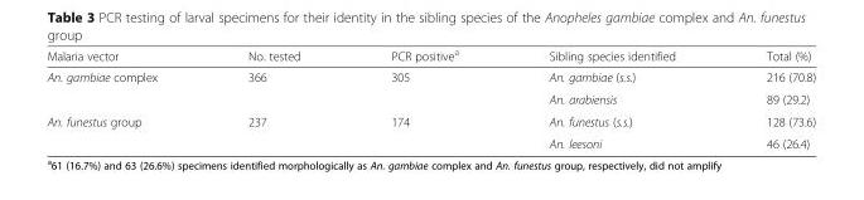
<table><thead><tr><td>Malaria vector</td><td>No. tested</td><td>PCR positive<sup>a</sup></td><td>Sibling species identified</td><td>Total (%)</td></tr></thead><tbody><tr><td rowspan="2">An. gambiae complex</td><td rowspan="2">366</td><td rowspan="2">305</td><td>An. gambiae (s.s.)</td><td>216 (70.8)</td></tr><tr><td>An. arabiensis</td><td>89 (29.2)</td></tr><tr><td rowspan="2">An. funestus group</td><td rowspan="2">237</td><td rowspan="2">174</td><td>An. funestus (s.s.)</td><td>128 (73.6)</td></tr><tr><td>An. leesoni</td><td>46 (26.4)</td></tr></tbody></table>